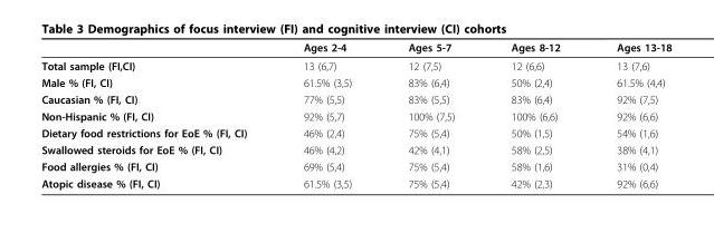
<table><thead><tr><td></td><td>Ages 2-4</td><td>Ages 5-7</td><td>Ages 8-12</td><td>Ages 13-18</td></tr></thead><tbody><tr><td>Total sample (FI,CI)</td><td>13 (6,7)</td><td>12 (7,5)</td><td>12 (6,6)</td><td>13 (7,6)</td></tr><tr><td>Male % (FI, CI)</td><td>61.5% (3,5)</td><td>83% (6,4)</td><td>50% (2,4)</td><td>61.5% (4,4)</td></tr><tr><td>Caucasian % (FI, CI)</td><td>77% (5,5)</td><td>83% (5,5)</td><td>83% (6,4)</td><td>92% (7,5)</td></tr><tr><td>Non-Hispanic % (FI, CI)</td><td>92% (5,7)</td><td>100% (7,5)</td><td>100% (6,6)</td><td>92% (6,6)</td></tr><tr><td>Dietary food restrictions for EoE % (FI, CI)</td><td>46% (2,4)</td><td>75% (5,4)</td><td>50% (1,5)</td><td>54% (1,6)</td></tr><tr><td>Swallowed steroids for EoE % (FI, CI)</td><td>46% (4,2)</td><td>42% (4,1)</td><td>58% (2,5)</td><td>38% (4,1)</td></tr><tr><td>Food allergies % (FI, CI)</td><td>69% (5,4)</td><td>75% (5,4)</td><td>58% (1,6)</td><td>31% (0,4)</td></tr><tr><td>Atopic disease % (FI, CI)</td><td>61.5% (3,5)</td><td>75% (5,4)</td><td>42% (2,3)</td><td>92% (6,6)</td></tr></tbody></table>